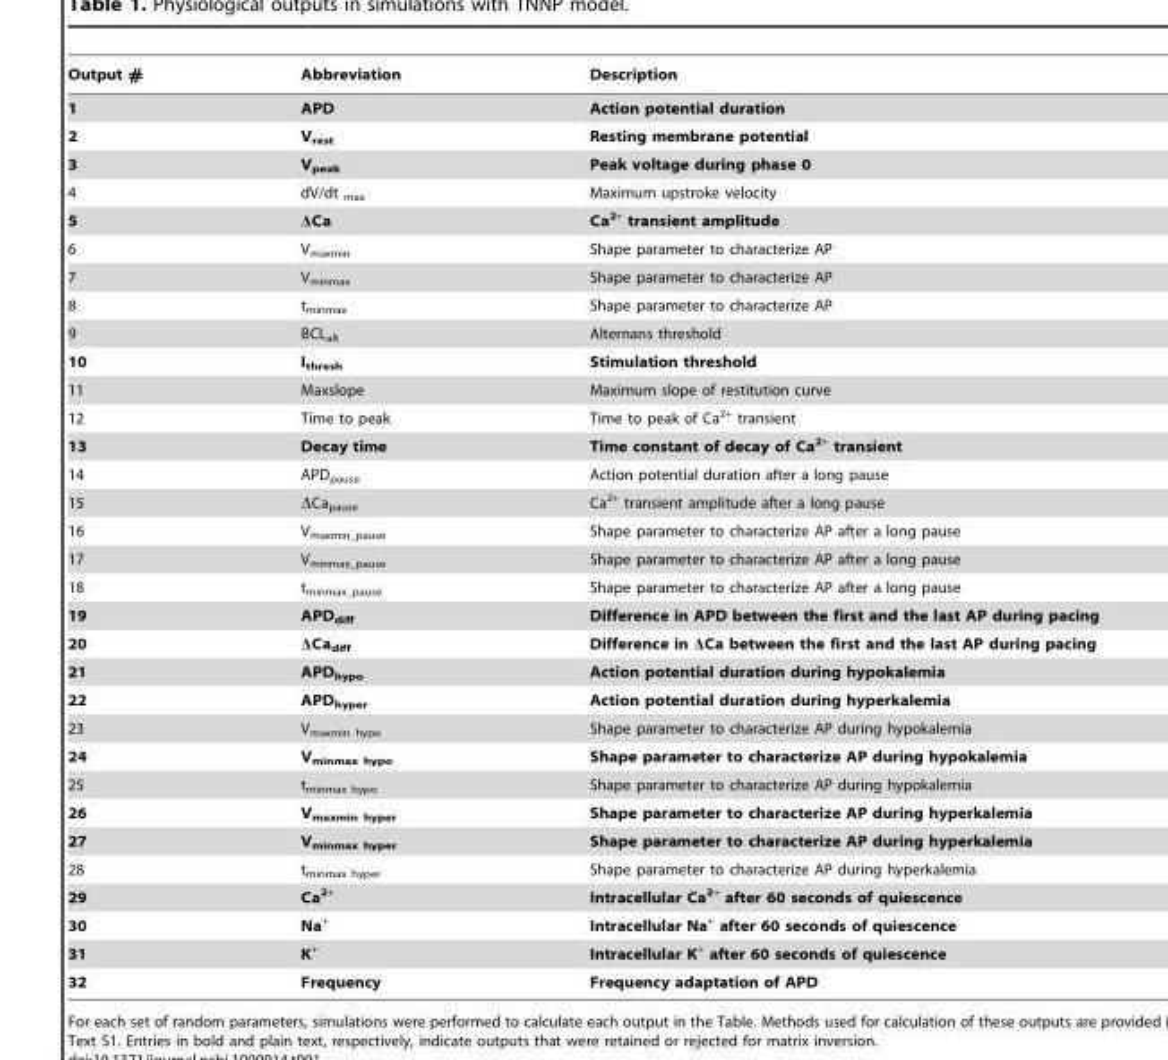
<table><thead><tr><td>Output #</td><td>Abbreviation</td><td>Description</td></tr></thead><tbody><tr><td>1</td><td>APD</td><td>Action potential duration</td></tr><tr><td>2</td><td>V<sub>rest</sub></td><td>Resting membrane potential</td></tr><tr><td>3</td><td>V<sub>peak</sub></td><td>Peak voltage during phase 0</td></tr><tr><td>4</td><td>dV/dt <sub>max</sub></td><td>Maximum upstroke velocity</td></tr><tr><td>5</td><td>ΔCa</td><td>Ca<sup>2+</sup> transient amplitude</td></tr><tr><td>6</td><td>V<sub>maxmin</sub></td><td>Shape parameter to characterize AP</td></tr><tr><td>7</td><td>V<sub>minmax</sub></td><td>Shape parameter to characterize AP</td></tr><tr><td>8</td><td>t<sub>minmax</sub></td><td>Shape parameter to characterize AP</td></tr><tr><td>9</td><td>BCL<sub>alt</sub></td><td>Alternans threshold</td></tr><tr><td>10</td><td>I<sub>thresh</sub></td><td>Stimulation threshold</td></tr><tr><td>11</td><td>Maxslope</td><td>Maximum slope of restitution curve</td></tr><tr><td>12</td><td>Time to peak</td><td>Time to peak of Ca<sup>2+</sup> transient</td></tr><tr><td>13</td><td>Decay time</td><td>Time constant of decay of Ca<sup>2+</sup> transient</td></tr><tr><td>14</td><td>APD<sub>pause</sub></td><td>Action potential duration after a long pause</td></tr><tr><td>15</td><td>ΔCa<sub>pause</sub></td><td>Ca<sup>2+</sup> transient amplitude after a long pause</td></tr><tr><td>16</td><td>V<sub>maxmin_pause</sub></td><td>Shape parameter to characterize AP after a long pause</td></tr><tr><td>17</td><td>V<sub>minmax_pause</sub></td><td>Shape parameter to characterize AP after a long pause</td></tr><tr><td>18</td><td>t<sub>minmax_pause</sub></td><td>Shape parameter to characterize AP after a long pause</td></tr><tr><td>19</td><td>APD<sub>diff</sub></td><td>Difference in APD between the first and the last AP during pacing</td></tr><tr><td>20</td><td>ΔCa<sub>diff</sub></td><td>Difference in ΔCa between the first and the last AP during pacing</td></tr><tr><td>21</td><td>APD<sub>hypo</sub></td><td>Action potential duration during hypokalemia</td></tr><tr><td>22</td><td>APD<sub>hyper</sub></td><td>Action potential duration during hyperkalemia</td></tr><tr><td>23</td><td>V<sub>maxmin hypo</sub></td><td>Shape parameter to characterize AP during hypokalemia</td></tr><tr><td>24</td><td>V<sub>minmax hypo</sub></td><td>Shape parameter to characterize AP during hypokalemia</td></tr><tr><td>25</td><td>t<sub>minmax hypo</sub></td><td>Shape parameter to characterize AP during hypokalemia</td></tr><tr><td>26</td><td>V<sub>maxmin hyper</sub></td><td>Shape parameter to characterize AP during hyperkalemia</td></tr><tr><td>27</td><td>V<sub>minmax hyper</sub></td><td>Shape parameter to characterize AP during hyperkalemia</td></tr><tr><td>28</td><td>t<sub>minmax hyper</sub></td><td>Shape parameter to characterize AP during hyperkalemia</td></tr><tr><td>29</td><td>Ca<sup>2+</sup></td><td>Intracellular Ca<sup>2+</sup> after 60 seconds of quiescence</td></tr><tr><td>30</td><td>Na<sup>+</sup></td><td>Intracellular Na<sup>+</sup> after 60 seconds of quiescence</td></tr><tr><td>31</td><td>K<sup>+</sup></td><td>Intracellular K<sup>+</sup> after 60 seconds of quiescence</td></tr><tr><td>32</td><td>Frequency</td><td>Frequency adaptation of APD</td></tr></tbody></table>